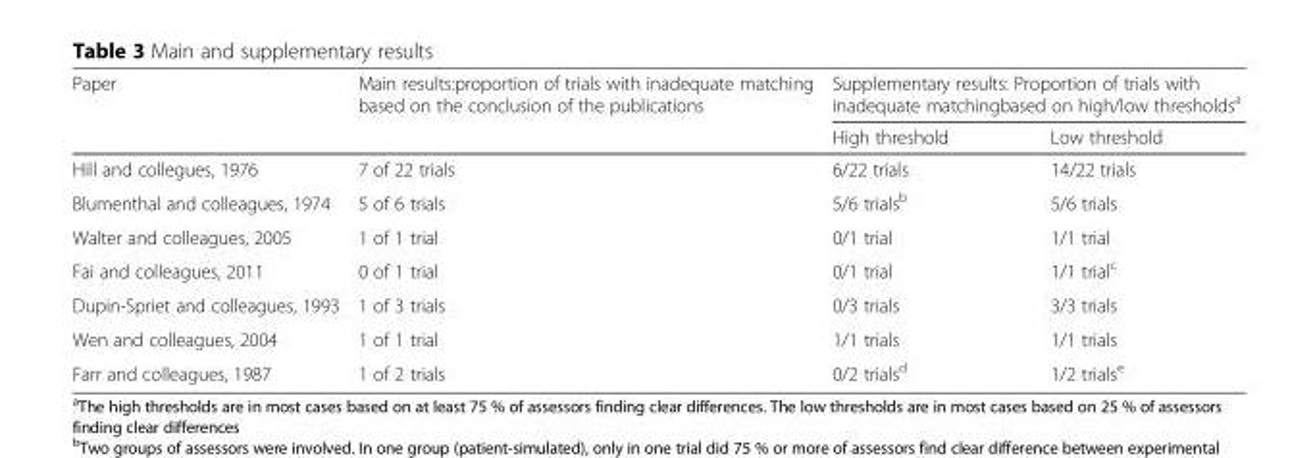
<table><thead><tr><td rowspan="2">Paper</td><td rowspan="2">Main results:proportion of trials with inadequate matching based on the conclusion of the publications</td><td colspan="2">Supplementary results: Proportion of trials with inadequate matchingbased on high/low thresholds<sup>a</sup></td></tr><tr><td>High threshold</td><td>Low threshold</td></tr></thead><tbody><tr><td>Hill and collegues, 1976</td><td>7 of 22 trials</td><td>6/22 trials</td><td>14/22 trials</td></tr><tr><td>Blumenthal and colleagues, 1974</td><td>5 of 6 trials</td><td>5/6 trials<sup>b</sup></td><td>5/6 trials</td></tr><tr><td>Walter and colleagues, 2005</td><td>1 of 1 trial</td><td>0/1 trial</td><td>1/1 trial</td></tr><tr><td>Fai and colleagues, 2011</td><td>0 of 1 trial</td><td>0/1 trial</td><td>1/1 trial<sup>c</sup></td></tr><tr><td>Dupin-Spriet and colleagues, 1993</td><td>1 of 3 trials</td><td>0/3 trials</td><td>3/3 trials</td></tr><tr><td>Wen and colleagues, 2004</td><td>1 of 1 trial</td><td>1/1 trials</td><td>1/1 trials</td></tr><tr><td>Farr and colleagues, 1987</td><td>1 of 2 trials</td><td>0/2 trials<sup>d</sup></td><td>1/2 trials<sup>e</sup></td></tr></tbody></table>